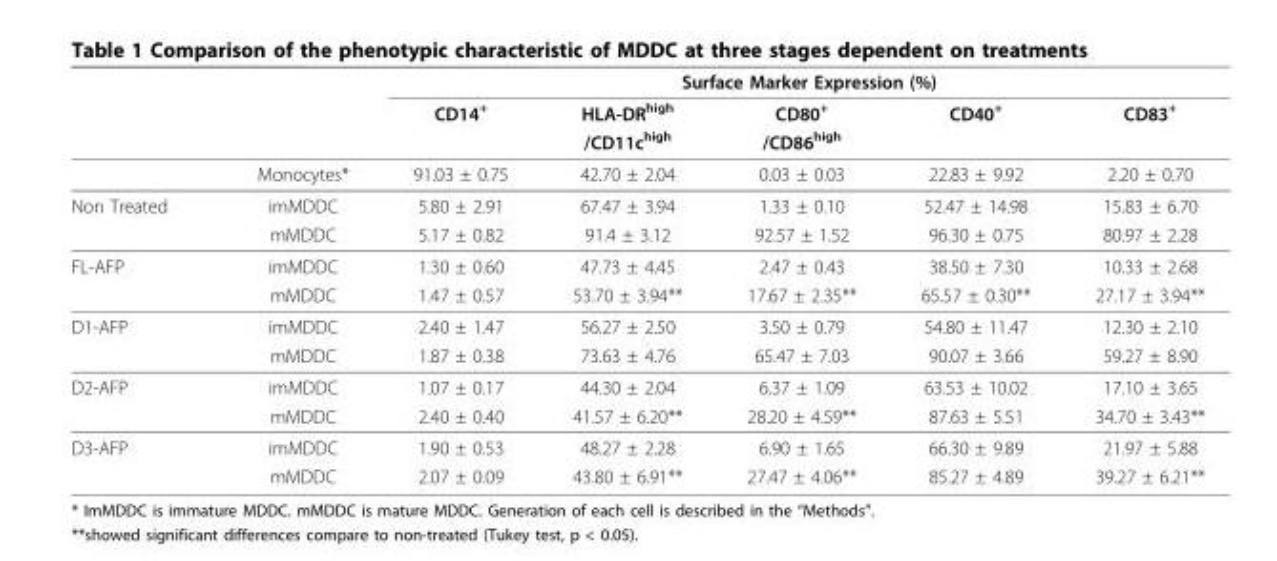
<table><thead><tr><td rowspan="3"></td><td rowspan="3"></td><td colspan="5">Surface Marker Expression (%)</td></tr><tr><td rowspan="2">CD14<sup>+</sup></td><td rowspan="2">HLA-DR<sup>high</sup> /CD11c<sup>high</sup></td><td rowspan="2">CD80<sup>+</sup> /CD86<sup>high</sup></td><td rowspan="2">CD40<sup>+</sup></td><td rowspan="2">CD83<sup>+</sup></td></tr><tr></tr></thead><tbody><tr><td></td><td>Monocytes*</td><td>91.03 ± 0.75</td><td>42.70 ± 2.04</td><td>0.03 ± 0.03</td><td>22.83 ± 9.92</td><td>2.20 ± 0.70</td></tr><tr><td rowspan="2">Non Treated</td><td>imMDDC</td><td>5.80 ± 2.91</td><td>67.47 ± 3.94</td><td>1.33 ± 0.10</td><td>52.47 ± 14.98</td><td>15.83 ± 6.70</td></tr><tr><td>mMDDC</td><td>5.17 ± 0.82</td><td>91.4 ± 3.12</td><td>92.57 ± 1.52</td><td>96.30 ± 0.75</td><td>80.97 ± 2.28</td></tr><tr><td rowspan="2">FL-AFP</td><td>imMDDC</td><td>1.30 ± 0.60</td><td>47.73 ± 4.45</td><td>2.47 ± 0.43</td><td>38.50 ± 7.30</td><td>10.33 ± 2.68</td></tr><tr><td>mMDDC</td><td>1.47 ± 0.57</td><td>53.70 ± 3.94**</td><td>17.67 ± 2.35**</td><td>65.57 ± 0.30**</td><td>27.17 ± 3.94**</td></tr><tr><td rowspan="2">D1-AFP</td><td>imMDDC</td><td>2.40 ± 1.47</td><td>56.27 ± 2.50</td><td>3.50 ± 0.79</td><td>54.80 ± 11.47</td><td>12.30 ± 2.10</td></tr><tr><td>mMDDC</td><td>1.87 ± 0.38</td><td>73.63 ± 4.76</td><td>65.47 ± 7.03</td><td>90.07 ± 3.66</td><td>59.27 ± 8.90</td></tr><tr><td rowspan="2">D2-AFP</td><td>imMDDC</td><td>1.07 ± 0.17</td><td>44.30 ± 2.04</td><td>6.37 ± 1.09</td><td>63.53 ± 10.02</td><td>17.10 ± 3.65</td></tr><tr><td>mMDDC</td><td>2.40 ± 0.40</td><td>41.57 ± 6.20**</td><td>28.20 ± 4.59**</td><td>87.63 ± 5.51</td><td>34.70 ± 3.43**</td></tr><tr><td rowspan="2">D3-AFP</td><td>imMDDC</td><td>1.90 ± 0.53</td><td>48.27 ± 2.28</td><td>6.90 ± 1.65</td><td>66.30 ± 9.89</td><td>21.97 ± 5.88</td></tr><tr><td>mMDDC</td><td>2.07 ± 0.09</td><td>43.80 ± 6.91**</td><td>27.47 ± 4.06**</td><td>85.27 ± 4.89</td><td>39.27 ± 6.21**</td></tr></tbody></table>